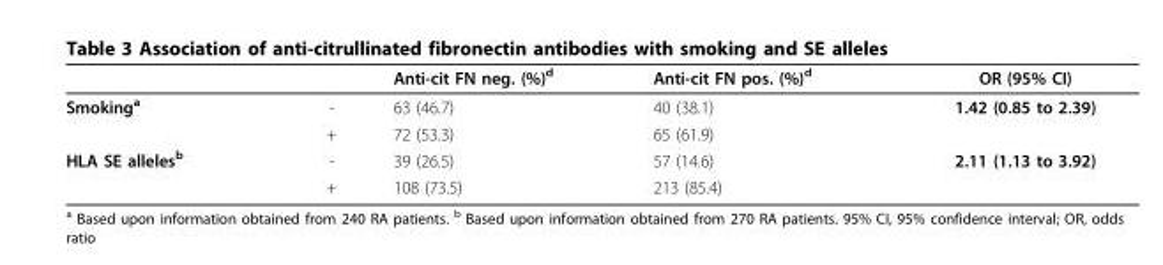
<table><thead><tr><td></td><td></td><td>Anti-cit FN neg. (%)<sup>d</sup></td><td>Anti-cit FN pos. (%)<sup>d</sup></td><td>OR (95% CI)</td></tr></thead><tbody><tr><td rowspan="2">Smoking<sup>a</sup></td><td>-</td><td>63 (46.7)</td><td>40 (38.1)</td><td>1.42 (0.85 to 2.39)</td></tr><tr><td>+</td><td>72 (53.3)</td><td>65 (61.9)</td><td></td></tr><tr><td rowspan="2">HLA SE alleles<sup>b</sup></td><td>-</td><td>39 (26.5)</td><td>57 (14.6)</td><td>2.11 (1.13 to 3.92)</td></tr><tr><td>+</td><td>108 (73.5)</td><td>213 (85.4)</td><td></td></tr></tbody></table>